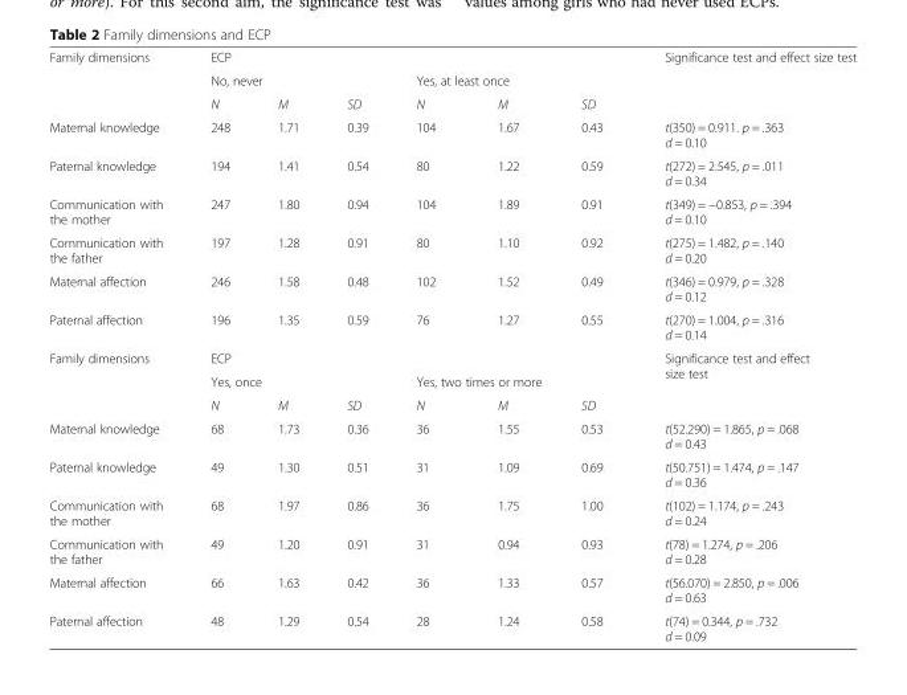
<table><tbody><tr><td rowspan="3">Family dimensions</td><td colspan="6">ECP</td><td rowspan="3">Significance test and effect size test</td></tr><tr><td colspan="3">No, never</td><td colspan="3">Yes, at least once</td></tr><tr><td>N</td><td>M</td><td>SD</td><td>N</td><td>M</td><td>SD</td></tr><tr><td>Maternal knowledge</td><td>248</td><td>1.71</td><td>0.39</td><td>104</td><td>1.67</td><td>0.43</td><td>t(350) = 0.911. p = .363 d = 0.10</td></tr><tr><td>Paternal knowledge</td><td>194</td><td>1.41</td><td>0.54</td><td>80</td><td>1.22</td><td>0.59</td><td>t(272) = 2.545, p = .011 d = 0.34</td></tr><tr><td>Communication with the mother</td><td>247</td><td>1.80</td><td>0.94</td><td>104</td><td>1.89</td><td>0.91</td><td>t(349) = −0.853, p = .394 d = 0.10</td></tr><tr><td>Communication with the father</td><td>197</td><td>1.28</td><td>0.91</td><td>80</td><td>1.10</td><td>0.92</td><td>t(275) = 1.482, p = .140 d = 0.20</td></tr><tr><td>Maternal affection</td><td>246</td><td>1.58</td><td>0.48</td><td>102</td><td>1.52</td><td>0.49</td><td>t(346) = 0.979, p = .328 d = 0.12</td></tr><tr><td>Paternal affection</td><td>196</td><td>1.35</td><td>0.59</td><td>76</td><td>1.27</td><td>0.55</td><td>t(270) = 1.004, p = .316 d = 0.14</td></tr><tr><td rowspan="3">Family dimensions</td><td colspan="6">ECP</td><td rowspan="3">Significance test and effect size test</td></tr><tr><td colspan="3">Yes, once</td><td colspan="3">Yes, two times or more</td></tr><tr><td>N</td><td>M</td><td>SD</td><td>N</td><td>M</td><td>SD</td></tr><tr><td>Maternal knowledge</td><td>68</td><td>1.73</td><td>0.36</td><td>36</td><td>1.55</td><td>0.53</td><td>t(52.290) = 1.865, p = .068 d = 0.43</td></tr><tr><td>Paternal knowledge</td><td>49</td><td>1.30</td><td>0.51</td><td>31</td><td>1.09</td><td>0.69</td><td>t(50.751) = 1.474, p = .147 d = 0.36</td></tr><tr><td>Communication with the mother</td><td>68</td><td>1.97</td><td>0.86</td><td>36</td><td>1.75</td><td>1.00</td><td>t(102) = 1.174, p = .243 d = 0.24</td></tr><tr><td>Communication with the father</td><td>49</td><td>1.20</td><td>0.91</td><td>31</td><td>0.94</td><td>0.93</td><td>t(78) = 1.274, p = .206 d = 0.28</td></tr><tr><td>Maternal affection</td><td>66</td><td>1.63</td><td>0.42</td><td>36</td><td>1.33</td><td>0.57</td><td>t(56.070) = 2.850, p = .006 d = 0.63</td></tr><tr><td>Paternal affection</td><td>48</td><td>1.29</td><td>0.54</td><td>28</td><td>1.24</td><td>0.58</td><td>t(74) = 0.344, p = .732 d = 0.09</td></tr></tbody></table>